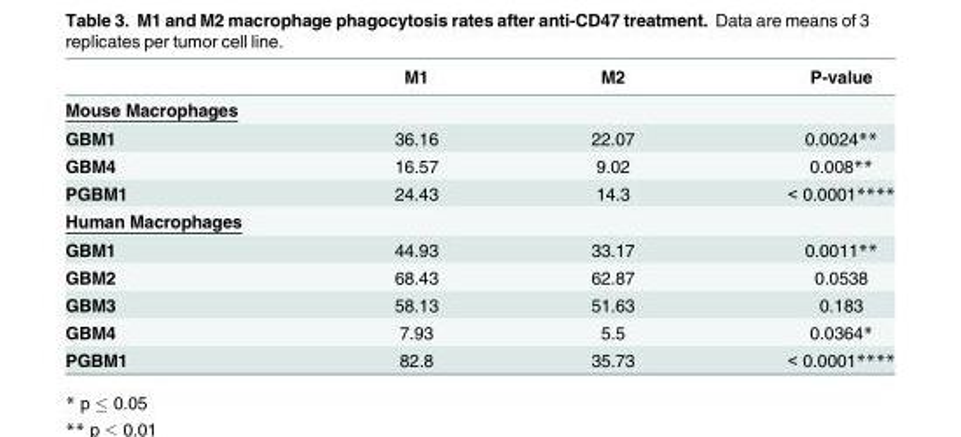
<table><thead><tr><td></td><td>M1</td><td>M2</td><td>P-value</td></tr></thead><tbody><tr><td colspan="4">Mouse Macrophages</td></tr><tr><td>GBM1</td><td>36.16</td><td>22.07</td><td>0.0024**</td></tr><tr><td>GBM4</td><td>16.57</td><td>9.02</td><td>0.008**</td></tr><tr><td>PGBM1</td><td>24.43</td><td>14.3</td><td>&lt; 0.0001****</td></tr><tr><td colspan="4">Human Macrophages</td></tr><tr><td>GBM1</td><td>44.93</td><td>33.17</td><td>0.0011**</td></tr><tr><td>GBM2</td><td>68.43</td><td>62.87</td><td>0.0538</td></tr><tr><td>GBM3</td><td>58.13</td><td>51.63</td><td>0.183</td></tr><tr><td>GBM4</td><td>7.93</td><td>5.5</td><td>0.0364*</td></tr><tr><td>PGBM1</td><td>82.8</td><td>35.73</td><td>&lt; 0.0001****</td></tr></tbody></table>